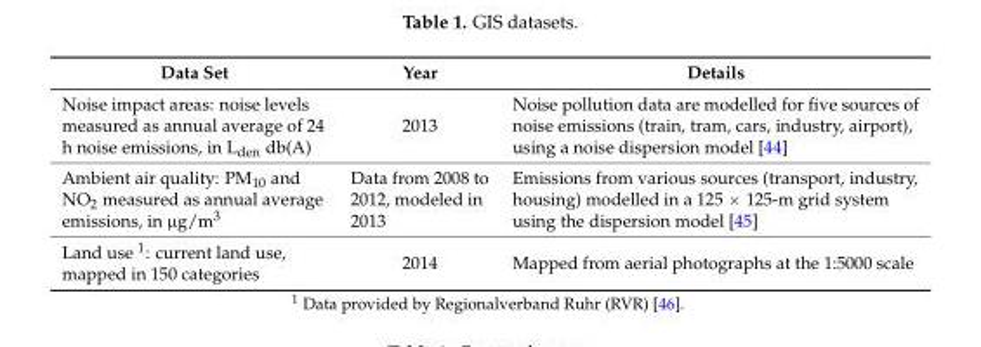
<table><thead><tr><td>Data Set</td><td>Year</td><td>Details</td></tr></thead><tbody><tr><td>Noise impact areas: noise levels measured as annual average of 24 h noise emissions, in L<sub>den</sub> db(A)</td><td>2013</td><td>Noise pollution data are modelled for five sources of noise emissions (train, tram, cars, industry, airport), using a noise dispersion model [44]</td></tr><tr><td>Ambient air quality: PM<sub>10</sub> and NO<sub>2</sub> measured as annual average emissions, in µg/m<sup>3</sup></td><td>Data from 2008 to 2012, modeled in 2013</td><td>Emissions from various sources (transport, industry, housing) modelled in a 125 ˆ 125-m grid system using the dispersion model [45]</td></tr><tr><td>Land use <sup>1</sup>: current land use, mapped in 150 categories</td><td>2014</td><td>Mapped from aerial photographs at the 1:5000 scale</td></tr></tbody></table>